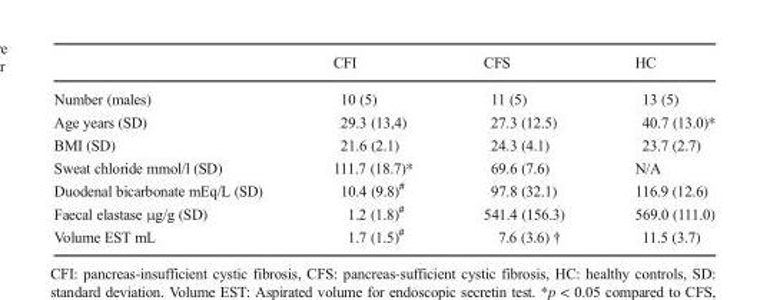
<table><thead><tr><td></td><td>CFI</td><td>CFS</td><td>HC</td></tr></thead><tbody><tr><td>Number (males)</td><td>10 (5)</td><td>11 (5)</td><td>13 (5)</td></tr><tr><td>Age years (SD)</td><td>29.3 (13,4)</td><td>27.3 (12.5)</td><td>40.7 (13.0)*</td></tr><tr><td>BMI (SD)</td><td>21.6 (2.1)</td><td>24.3 (4.1)</td><td>23.7 (2.7)</td></tr><tr><td>Sweat chloride mmol/l (SD)</td><td>111.7 (18.7)*</td><td>69.6 (7.6)</td><td>N/A</td></tr><tr><td>Duodenal bicarbonate mEq/L (SD)</td><td>10.4 (9.8)<sup>#</sup></td><td>97.8 (32.1)</td><td>116.9 (12.6)</td></tr><tr><td>Faecal elastase μg/g (SD)</td><td>1.2 (1.8)<sup>#</sup></td><td>541.4 (156.3)</td><td>569.0 (111.0)</td></tr><tr><td>Volume EST mL</td><td>1.7 (1.5)<sup>#</sup></td><td>7.6 (3.6) †</td><td>11.5 (3.7)</td></tr></tbody></table>